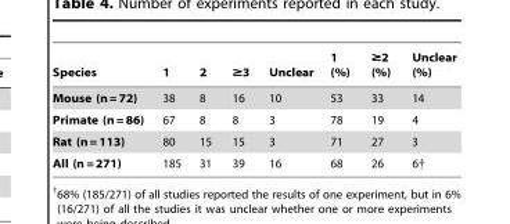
<table><thead><tr><td>Species</td><td>1</td><td>2</td><td>≥3</td><td>Unclear</td><td>1 (%)</td><td>≥2 (%)</td><td>Unclear (%)</td></tr></thead><tbody><tr><td>Mouse (n = 72)</td><td>38</td><td>8</td><td>16</td><td>10</td><td>53</td><td>33</td><td>14</td></tr><tr><td>Primate (n = 86)</td><td>67</td><td>8</td><td>8</td><td>3</td><td>78</td><td>19</td><td>4</td></tr><tr><td>Rat (n = 113)</td><td>80</td><td>15</td><td>15</td><td>3</td><td>71</td><td>27</td><td>3</td></tr><tr><td>All (n = 271)</td><td>185</td><td>31</td><td>39</td><td>16</td><td>68</td><td>26</td><td>6†</td></tr></tbody></table>